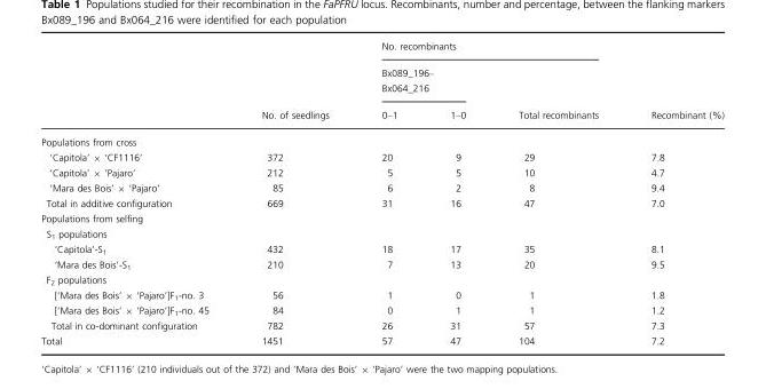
<table><thead><tr><td rowspan="3"></td><td rowspan="3">No. of seedlings</td><td colspan="3">No. recombinants</td><td rowspan="3">Recombinant (%)</td></tr><tr><td colspan="2">Bx089_196– Bx064_216</td><td rowspan="2">Total recombinants</td></tr><tr><td>0–1</td><td>1–0</td></tr></thead><tbody><tr><td colspan="6">Populations from cross</td></tr><tr><td>‘Capitola’ × ‘CF1116’</td><td>372</td><td>20</td><td>9</td><td>29</td><td>7.8</td></tr><tr><td>‘Capitola’ × ‘Pajaro’</td><td>212</td><td>5</td><td>5</td><td>10</td><td>4.7</td></tr><tr><td>‘Mara des Bois’ × ‘Pajaro’</td><td>85</td><td>6</td><td>2</td><td>8</td><td>9.4</td></tr><tr><td>Total in additive configuration</td><td>669</td><td>31</td><td>16</td><td>47</td><td>7.0</td></tr><tr><td colspan="6">Populations from selfing</td></tr><tr><td colspan="6">S<sub>1</sub> populations</td></tr><tr><td>‘Capitola’-S<sub>1</sub></td><td>432</td><td>18</td><td>17</td><td>35</td><td>8.1</td></tr><tr><td>‘Mara des Bois’-S<sub>1</sub></td><td>210</td><td>7</td><td>13</td><td>20</td><td>9.5</td></tr><tr><td colspan="6">F<sub>2</sub> populations</td></tr><tr><td>[‘Mara des Bois’ × ‘Pajaro’]F<sub>1</sub>-no. 3</td><td>56</td><td>1</td><td>0</td><td>1</td><td>1.8</td></tr><tr><td>[‘Mara des Bois’ × ‘Pajaro’]F<sub>1</sub>-no. 45</td><td>84</td><td>0</td><td>1</td><td>1</td><td>1.2</td></tr><tr><td>Total in co-dominant configuration</td><td>782</td><td>26</td><td>31</td><td>57</td><td>7.3</td></tr><tr><td>Total</td><td>1451</td><td>57</td><td>47</td><td>104</td><td>7.2</td></tr></tbody></table>